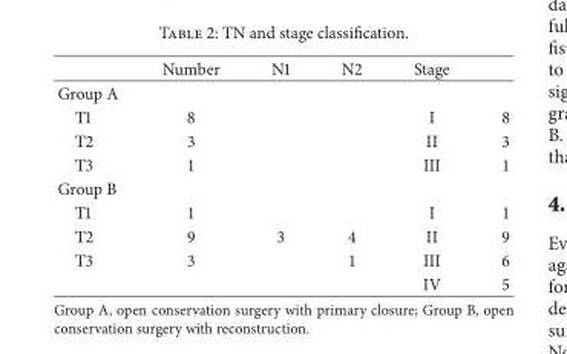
<table><thead><tr><td></td><td>Number</td><td>N1</td><td>N2</td><td>Stage</td><td></td></tr></thead><tbody><tr><td colspan="6">Group A</td></tr><tr><td>T1</td><td>8</td><td></td><td></td><td>I</td><td>8</td></tr><tr><td>T2</td><td>3</td><td></td><td></td><td>II</td><td>3</td></tr><tr><td>T3</td><td>1</td><td></td><td></td><td>III</td><td>1</td></tr><tr><td colspan="6">Group B</td></tr><tr><td>T1</td><td>1</td><td></td><td></td><td>I</td><td>1</td></tr><tr><td>T2</td><td>9</td><td>3</td><td>4</td><td>II</td><td>9</td></tr><tr><td rowspan="2">T3</td><td>3</td><td></td><td>1</td><td>III</td><td>6</td></tr><tr><td></td><td></td><td></td><td>IV</td><td>5</td></tr></tbody></table>